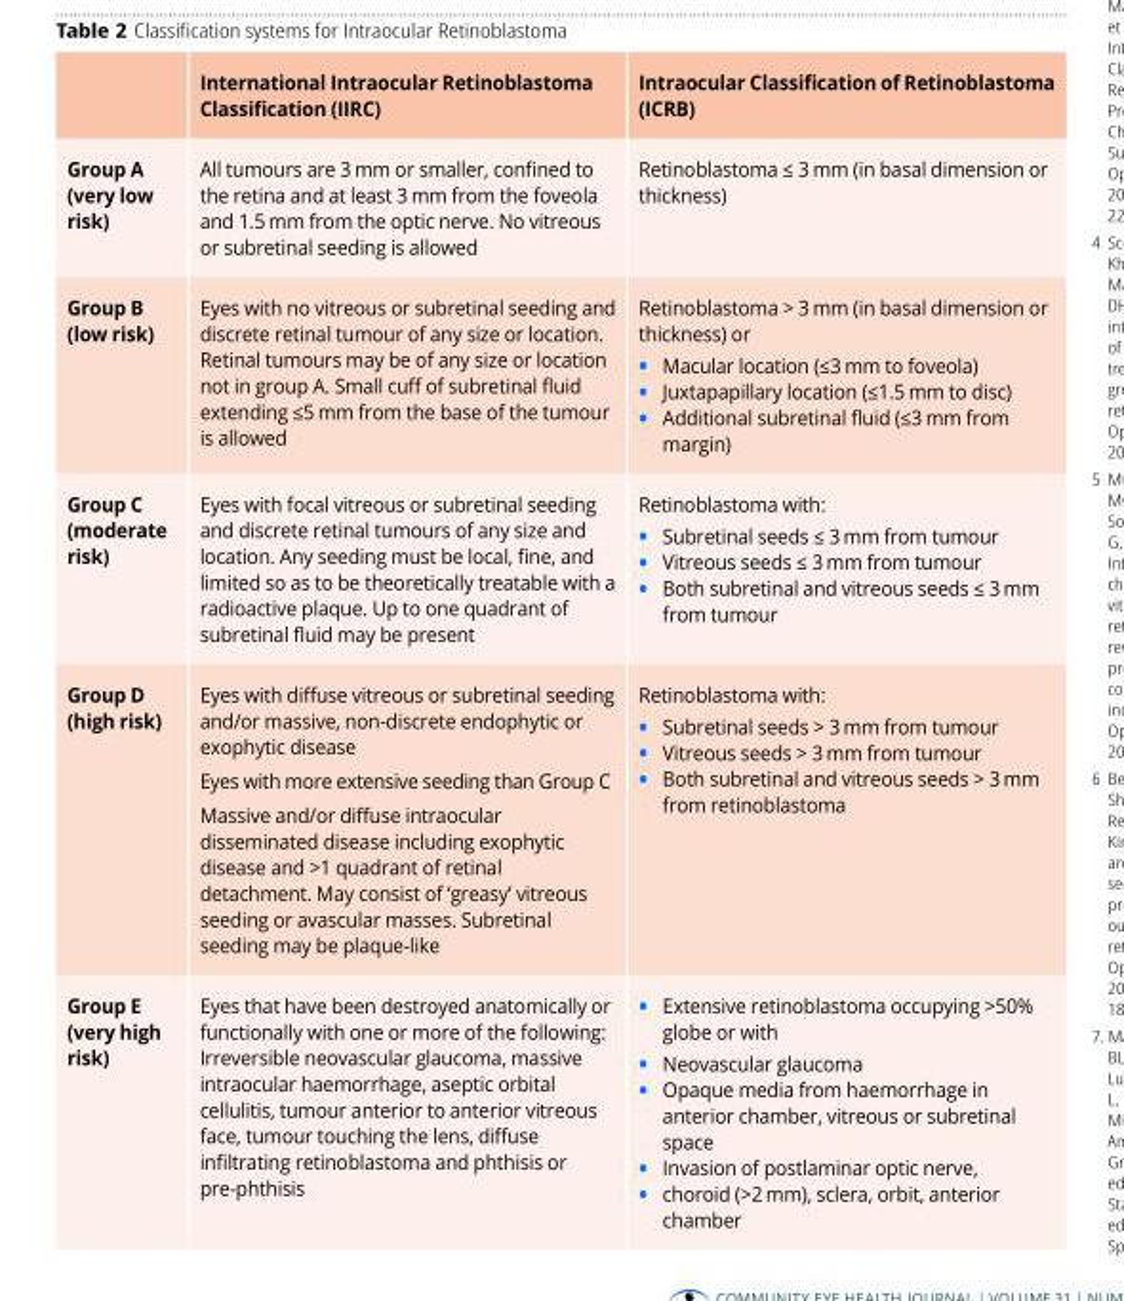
<table><thead><tr><td></td><td>International Intraocular Retinoblastoma Classification (IIRC)</td><td>Intraocular Classification of Retinoblastoma (ICRB)</td></tr></thead><tbody><tr><td>Group A (very low risk)</td><td>All tumours are 3 mm or smaller, confined to the retina and at least 3 mm from the foveola and 1.5 mm from the optic nerve. No vitreous or subretinal seeding is allowed</td><td>Retinoblastoma ≤ 3 mm (in basal dimension or thickness)</td></tr><tr><td>Group B (low risk)</td><td>Eyes with no vitreous or subretinal seeding and discrete retinal tumour of any size or location. Retinal tumours may be of any size or location not in group A. Small cuff of subretinal fluid extending ≤5 mm from the base of the tumour is allowed</td><td>Retinoblastoma &gt; 3 mm (in basal dimension or thickness) or • Macular location (≤3 mm to foveola) • Juxtapapillary location (≤1.5 mm to disc) • Additional subretinal fluid (≤3 mm from margin)</td></tr><tr><td>Group C (moderate risk)</td><td>Eyes with focal vitreous or subretinal seeding and discrete retinal tumours of any size and location. Any seeding must be local, fine, and limited so as to be theoretically treatable with a radioactive plaque. Up to one quadrant of subretinal fluid may be present</td><td>Retinoblastoma with: • Subretinal seeds ≤ 3 mm from tumour • Vitreous seeds ≤ 3 mm from tumour • Both subretinal and vitreous seeds ≤ 3 mm from tumour</td></tr><tr><td>Group D (high risk)</td><td>Eyes with diffuse vitreous or subretinal seeding and/or massive, non-discrete endophytic or exophytic disease Eyes with more extensive seeding than Group C Massive and/or diffuse intraocular disseminated disease including exophytic disease and &gt;1 quadrant of retinal detachment. May consist of ‘greasy’ vitreous seeding or avascular masses. Subretinal seeding may be plaque-like</td><td>Retinoblastoma with: • Subretinal seeds &gt; 3 mm from tumour • Vitreous seeds &gt; 3 mm from tumour • Both subretinal and vitreous seeds &gt; 3 mm from retinoblastoma</td></tr><tr><td>Group E (very high risk)</td><td>Eyes that have been destroyed anatomically or functionally with one or more of the following: Irreversible neovascular glaucoma, massive intraocular haemorrhage, aseptic orbital cellulitis, tumour anterior to anterior vitreous face, tumour touching the lens, diffuse infiltrating retinoblastoma and phthisis or pre-phthisis</td><td>• Extensive retinoblastoma occupying &gt;50% globe or with • Neovascular glaucoma • Opaque media from haemorrhage in anterior chamber, vitreous or subretinal space • Invasion of postlaminar optic nerve, • choroid (&gt;2 mm), sclera, orbit, anterior chamber</td></tr></tbody></table>